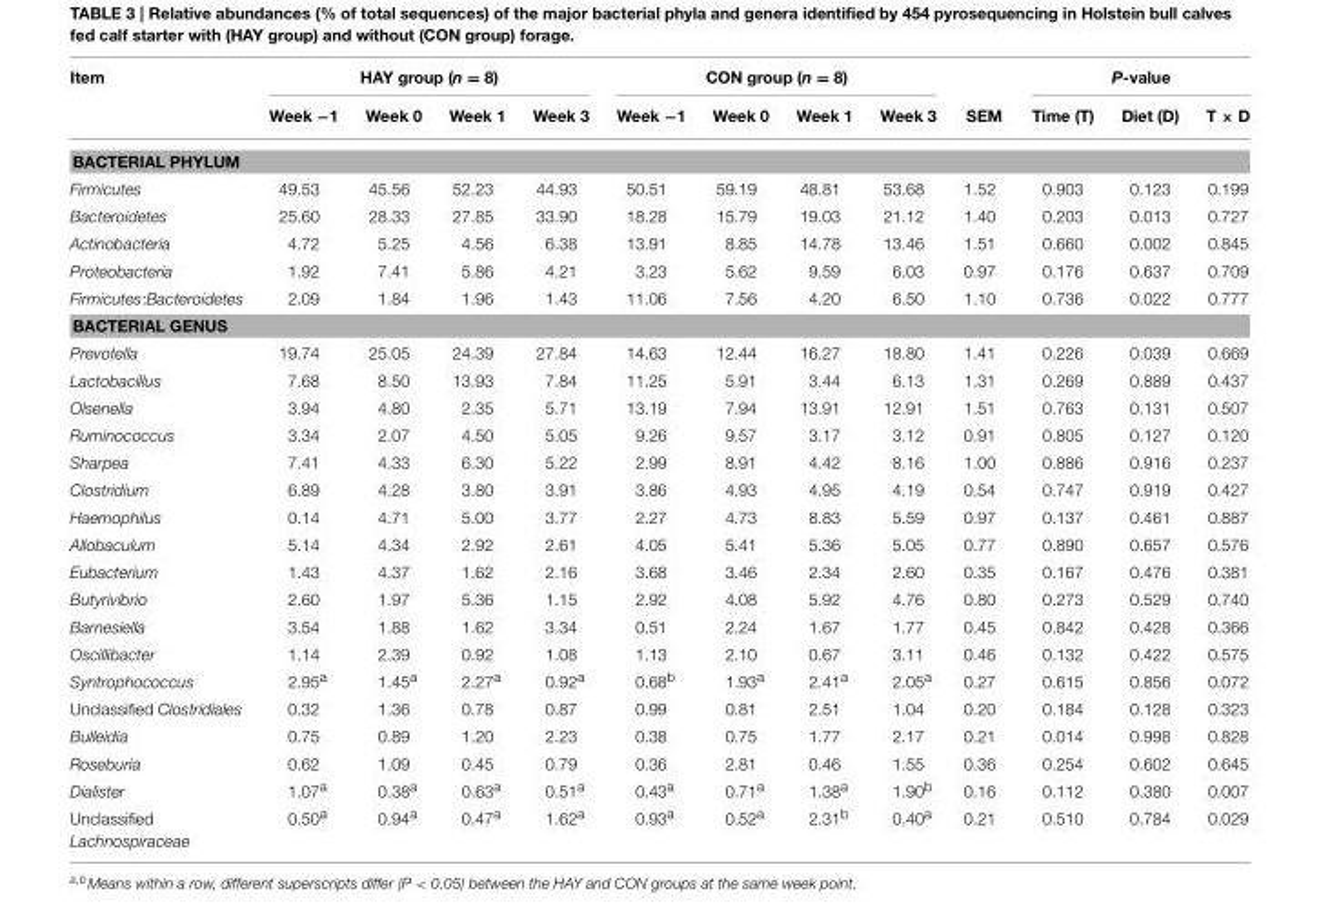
<table><thead><tr><td rowspan="2">Item</td><td colspan="4">HAY group (n = 8)</td><td colspan="4">CON group (n = 8)</td><td rowspan="2">SEM</td><td colspan="3">P-value</td></tr><tr><td>Week −1</td><td>Week 0</td><td>Week 1</td><td>Week 3</td><td>Week −1</td><td>Week 0</td><td>Week 1</td><td>Week 3</td><td>Time (T)</td><td>Diet (D)</td><td>T × D</td></tr></thead><tbody><tr><td colspan="13">BACTERIAL PHYLUM</td></tr><tr><td>Firmicutes</td><td>49.53</td><td>45.56</td><td>52.23</td><td>44.93</td><td>50.51</td><td>59.19</td><td>48.81</td><td>53.68</td><td>1.52</td><td>0.903</td><td>0.123</td><td>0.199</td></tr><tr><td>Bacteroidetes</td><td>25.60</td><td>28.33</td><td>27.85</td><td>33.90</td><td>18.28</td><td>15.79</td><td>19.03</td><td>21.12</td><td>1.40</td><td>0.203</td><td>0.013</td><td>0.727</td></tr><tr><td>Actinobacteria</td><td>4.72</td><td>5.25</td><td>4.56</td><td>6.38</td><td>13.91</td><td>8.85</td><td>14.78</td><td>13.46</td><td>1.51</td><td>0.660</td><td>0.002</td><td>0.845</td></tr><tr><td>Proteobacteria</td><td>1.92</td><td>7.41</td><td>5.86</td><td>4.21</td><td>3.23</td><td>5.62</td><td>9.59</td><td>6.03</td><td>0.97</td><td>0.176</td><td>0.637</td><td>0.709</td></tr><tr><td>Firmicutes:Bacteroidetes</td><td>2.09</td><td>1.84</td><td>1.96</td><td>1.43</td><td>11.06</td><td>7.56</td><td>4.20</td><td>6.50</td><td>1.10</td><td>0.736</td><td>0.022</td><td>0.777</td></tr><tr><td colspan="13">BACTERIAL GENUS</td></tr><tr><td>Prevotella</td><td>19.74</td><td>25.05</td><td>24.39</td><td>27.84</td><td>14.63</td><td>12.44</td><td>16.27</td><td>18.80</td><td>1.41</td><td>0.226</td><td>0.039</td><td>0.669</td></tr><tr><td>Lactobacillus</td><td>7.68</td><td>8.50</td><td>13.93</td><td>7.84</td><td>11.25</td><td>5.91</td><td>3.44</td><td>6.13</td><td>1.31</td><td>0.269</td><td>0.889</td><td>0.437</td></tr><tr><td>Olsenella</td><td>3.94</td><td>4.80</td><td>2.35</td><td>5.71</td><td>13.19</td><td>7.94</td><td>13.91</td><td>12.91</td><td>1.51</td><td>0.763</td><td>0.131</td><td>0.507</td></tr><tr><td>Ruminococcus</td><td>3.34</td><td>2.07</td><td>4.50</td><td>5.05</td><td>9.26</td><td>9.57</td><td>3.17</td><td>3.12</td><td>0.91</td><td>0.805</td><td>0.127</td><td>0.120</td></tr><tr><td>Sharpea</td><td>7.41</td><td>4.33</td><td>6.30</td><td>5.22</td><td>2.99</td><td>8.91</td><td>4.42</td><td>8.16</td><td>1.00</td><td>0.886</td><td>0.916</td><td>0.237</td></tr><tr><td>Clostridium</td><td>6.89</td><td>4.28</td><td>3.80</td><td>3.91</td><td>3.86</td><td>4.93</td><td>4.95</td><td>4.19</td><td>0.54</td><td>0.747</td><td>0.919</td><td>0.427</td></tr><tr><td>Haemophilus</td><td>0.14</td><td>4.71</td><td>5.00</td><td>3.77</td><td>2.27</td><td>4.73</td><td>8.83</td><td>5.59</td><td>0.97</td><td>0.137</td><td>0.461</td><td>0.887</td></tr><tr><td>Allobaculum</td><td>5.14</td><td>4.34</td><td>2.92</td><td>2.61</td><td>4.05</td><td>5.41</td><td>5.36</td><td>5.05</td><td>0.77</td><td>0.890</td><td>0.657</td><td>0.576</td></tr><tr><td>Eubacterium</td><td>1.43</td><td>4.37</td><td>1.62</td><td>2.16</td><td>3.68</td><td>3.46</td><td>2.34</td><td>2.60</td><td>0.35</td><td>0.167</td><td>0.476</td><td>0.381</td></tr><tr><td>Butyrivibrio</td><td>2.60</td><td>1.97</td><td>5.36</td><td>1.15</td><td>2.92</td><td>4.08</td><td>5.92</td><td>4.76</td><td>0.80</td><td>0.273</td><td>0.529</td><td>0.740</td></tr><tr><td>Barnesiella</td><td>3.54</td><td>1.88</td><td>1.62</td><td>3.34</td><td>0.51</td><td>2.24</td><td>1.67</td><td>1.77</td><td>0.45</td><td>0.842</td><td>0.428</td><td>0.366</td></tr><tr><td>Oscillibacter</td><td>1.14</td><td>2.39</td><td>0.92</td><td>1.08</td><td>1.13</td><td>2.10</td><td>0.67</td><td>3.11</td><td>0.46</td><td>0.132</td><td>0.422</td><td>0.575</td></tr><tr><td>Syntrophococcus</td><td>2.95<sup>a</sup></td><td>1.45<sup>a</sup></td><td>2.27<sup>a</sup></td><td>0.92<sup>a</sup></td><td>0.68<sup>b</sup></td><td>1.93<sup>a</sup></td><td>2.41<sup>a</sup></td><td>2.05<sup>a</sup></td><td>0.27</td><td>0.615</td><td>0.856</td><td>0.072</td></tr><tr><td>Unclassified Clostridiales</td><td>0.32</td><td>1.36</td><td>0.78</td><td>0.87</td><td>0.99</td><td>0.81</td><td>2.51</td><td>1.04</td><td>0.20</td><td>0.184</td><td>0.128</td><td>0.323</td></tr><tr><td>Bulleidia</td><td>0.75</td><td>0.89</td><td>1.20</td><td>2.23</td><td>0.38</td><td>0.75</td><td>1.77</td><td>2.17</td><td>0.21</td><td>0.014</td><td>0.998</td><td>0.828</td></tr><tr><td>Roseburia</td><td>0.62</td><td>1.09</td><td>0.45</td><td>0.79</td><td>0.36</td><td>2.81</td><td>0.46</td><td>1.55</td><td>0.36</td><td>0.254</td><td>0.602</td><td>0.645</td></tr><tr><td>Dialister</td><td>1.07<sup>a</sup></td><td>0.38<sup>a</sup></td><td>0.63<sup>a</sup></td><td>0.51<sup>a</sup></td><td>0.43<sup>a</sup></td><td>0.71<sup>a</sup></td><td>1.38<sup>a</sup></td><td>1.90<sup>b</sup></td><td>0.16</td><td>0.112</td><td>0.380</td><td>0.007</td></tr><tr><td>Unclassified Lachnospiraceae</td><td>0.50<sup>a</sup></td><td>0.94<sup>a</sup></td><td>0.47<sup>a</sup></td><td>1.62<sup>a</sup></td><td>0.93<sup>a</sup></td><td>0.52<sup>a</sup></td><td>2.31<sup>b</sup></td><td>0.40<sup>a</sup></td><td>0.21</td><td>0.510</td><td>0.784</td><td>0.029</td></tr></tbody></table>